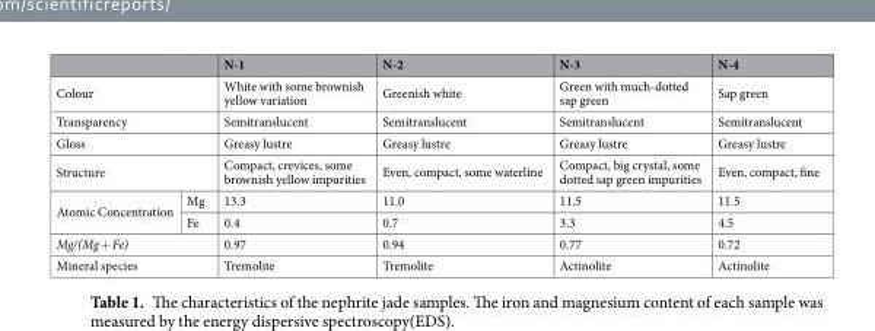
<table><thead><tr><td></td><td></td><td>N-1</td><td>N-2</td><td>N-3</td><td>N-4</td></tr></thead><tbody><tr><td colspan="2">Colour</td><td>White with some brownish yellow variation</td><td>Greenish white</td><td>Green with much-dotted sap green</td><td>Sap green</td></tr><tr><td colspan="2">Transparency</td><td>Semitranslucent</td><td>Semitranslucent</td><td>Semitranslucent</td><td>Semitranslucent</td></tr><tr><td colspan="2">Gloss</td><td>Greasy lustre</td><td>Greasy lustre</td><td>Greasy lustre</td><td>Greasy lustre</td></tr><tr><td colspan="2">Structure</td><td>Compact, crevices, some brownish yellow impurities</td><td>Even, compact, some waterline</td><td>Compact, big crystal, some dotted sap green impurities</td><td>Even, compact, fine</td></tr><tr><td rowspan="2">Atomic Concentration</td><td>Mg</td><td>13.3</td><td>11.0</td><td>11.5</td><td>11.5</td></tr><tr><td>Fe</td><td>0.4</td><td>0.7</td><td>3.3</td><td>4.5</td></tr><tr><td colspan="2">Mg/(Mg + Fe)</td><td>0.97</td><td>0.94</td><td>0.77</td><td>0.72</td></tr><tr><td colspan="2">Mineral species</td><td>Tremolite</td><td>Tremolite</td><td>Actinolite</td><td>Actinolite</td></tr></tbody></table>